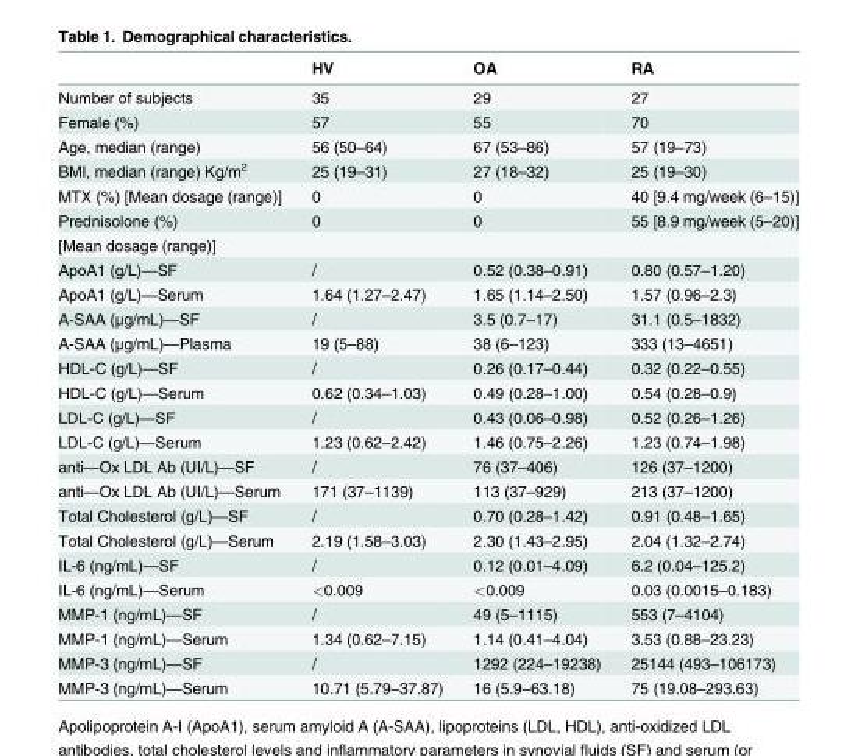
<table><thead><tr><td></td><td>HV</td><td>OA</td><td>RA</td></tr></thead><tbody><tr><td>Number of subjects</td><td>35</td><td>29</td><td>27</td></tr><tr><td>Female (%)</td><td>57</td><td>55</td><td>70</td></tr><tr><td>Age, median (range)</td><td>56 (50–64)</td><td>67 (53–86)</td><td>57 (19–73)</td></tr><tr><td>BMI, median (range) Kg/m<sup>2</sup></td><td>25 (19–31)</td><td>27 (18–32)</td><td>25 (19–30)</td></tr><tr><td>MTX (%) [Mean dosage (range)]</td><td>0</td><td>0</td><td>40 [9.4 mg/week (6–15)]</td></tr><tr><td>Prednisolone (%)</td><td>0</td><td>0</td><td>55 [8.9 mg/week (5–20)]</td></tr><tr><td colspan="4">[Mean dosage (range)]</td></tr><tr><td>ApoA1 (g/L)—SF</td><td>/</td><td>0.52 (0.38–0.91)</td><td>0.80 (0.57–1.20)</td></tr><tr><td>ApoA1 (g/L)—Serum</td><td>1.64 (1.27–2.47)</td><td>1.65 (1.14–2.50)</td><td>1.57 (0.96–2.3)</td></tr><tr><td>A-SAA (μg/mL)—SF</td><td>/</td><td>3.5 (0.7–17)</td><td>31.1 (0.5–1832)</td></tr><tr><td>A-SAA (μg/mL)—Plasma</td><td>19 (5–88)</td><td>38 (6–123)</td><td>333 (13–4651)</td></tr><tr><td>HDL-C (g/L)—SF</td><td>/</td><td>0.26 (0.17–0.44)</td><td>0.32 (0.22–0.55)</td></tr><tr><td>HDL-C (g/L)—Serum</td><td>0.62 (0.34–1.03)</td><td>0.49 (0.28–1.00)</td><td>0.54 (0.28–0.9)</td></tr><tr><td>LDL-C (g/L)—SF</td><td>/</td><td>0.43 (0.06–0.98)</td><td>0.52 (0.26–1.26)</td></tr><tr><td>LDL-C (g/L)—Serum</td><td>1.23 (0.62–2.42)</td><td>1.46 (0.75–2.26)</td><td>1.23 (0.74–1.98)</td></tr><tr><td>anti—Ox LDL Ab (UI/L)—SF</td><td>/</td><td>76 (37–406)</td><td>126 (37–1200)</td></tr><tr><td>anti—Ox LDL Ab (UI/L)—Serum</td><td>171 (37–1139)</td><td>113 (37–929)</td><td>213 (37–1200)</td></tr><tr><td>Total Cholesterol (g/L)—SF</td><td>/</td><td>0.70 (0.28–1.42)</td><td>0.91 (0.48–1.65)</td></tr><tr><td>Total Cholesterol (g/L)—Serum</td><td>2.19 (1.58–3.03)</td><td>2.30 (1.43–2.95)</td><td>2.04 (1.32–2.74)</td></tr><tr><td>IL-6 (ng/mL)—SF</td><td>/</td><td>0.12 (0.01–4.09)</td><td>6.2 (0.04–125.2)</td></tr><tr><td>IL-6 (ng/mL)—Serum</td><td>&lt;0.009</td><td>&lt;0.009</td><td>0.03 (0.0015–0.183)</td></tr><tr><td>MMP-1 (ng/mL)—SF</td><td>/</td><td>49 (5–1115)</td><td>553 (7–4104)</td></tr><tr><td>MMP-1 (ng/mL)—Serum</td><td>1.34 (0.62–7.15)</td><td>1.14 (0.41–4.04)</td><td>3.53 (0.88–23.23)</td></tr><tr><td>MMP-3 (ng/mL)—SF</td><td>/</td><td>1292 (224–19238)</td><td>25144 (493–106173)</td></tr><tr><td>MMP-3 (ng/mL)—Serum</td><td>10.71 (5.79–37.87)</td><td>16 (5.9–63.18)</td><td>75 (19.08–293.63)</td></tr></tbody></table>